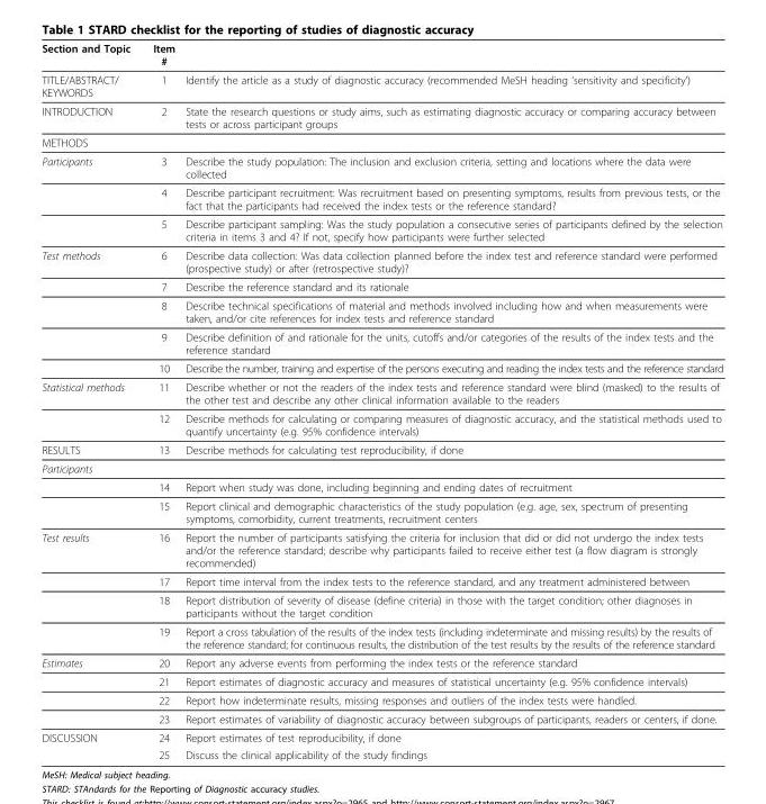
<table><thead><tr><td>Section and Topic</td><td>Item #</td><td></td></tr></thead><tbody><tr><td>TITLE/ABSTRACT/ KEYWORDS</td><td>1</td><td>Identify the article as a study of diagnostic accuracy (recommended MeSH heading ‘sensitivity and specificity’)</td></tr><tr><td>INTRODUCTION</td><td>2</td><td>State the research questions or study aims, such as estimating diagnostic accuracy or comparing accuracy between tests or across participant groups</td></tr><tr><td colspan="3">METHODS</td></tr><tr><td rowspan="3">Participants</td><td>3</td><td>Describe the study population: The inclusion and exclusion criteria, setting and locations where the data were collected</td></tr><tr><td>4</td><td>Describe participant recruitment: Was recruitment based on presenting symptoms, results from previous tests, or the fact that the participants had received the index tests or the reference standard?</td></tr><tr><td>5</td><td>Describe participant sampling: Was the study population a consecutive series of participants defined by the selection criteria in items 3 and 4? If not, specify how participants were further selected</td></tr><tr><td rowspan="5">Test methods</td><td>6</td><td>Describe data collection: Was data collection planned before the index test and reference standard were performed (prospective study) or after (retrospective study)?</td></tr><tr><td>7</td><td>Describe the reference standard and its rationale</td></tr><tr><td>8</td><td>Describe technical specifications of material and methods involved including how and when measurements were taken, and/or cite references for index tests and reference standard</td></tr><tr><td>9</td><td>Describe definition of and rationale for the units, cutoffs and/or categories of the results of the index tests and the reference standard</td></tr><tr><td>10</td><td>Describe the number, training and expertise of the persons executing and reading the index tests and the reference standard</td></tr><tr><td rowspan="2">Statistical methods</td><td>11</td><td>Describe whether or not the readers of the index tests and reference standard were blind (masked) to the results of the other test and describe any other clinical information available to the readers</td></tr><tr><td>12</td><td>Describe methods for calculating or comparing measures of diagnostic accuracy, and the statistical methods used to quantify uncertainty (e.g. 95% confidence intervals)</td></tr><tr><td>RESULTS</td><td>13</td><td>Describe methods for calculating test reproducibility, if done</td></tr><tr><td colspan="3">Participants</td></tr><tr><td></td><td>14</td><td>Report when study was done, including beginning and ending dates of recruitment</td></tr><tr><td></td><td>15</td><td>Report clinical and demographic characteristics of the study population (e.g. age, sex, spectrum of presenting symptoms, comorbidity, current treatments, recruitment centers</td></tr><tr><td rowspan="4">Test results</td><td>16</td><td>Report the number of participants satisfying the criteria for inclusion that did or did not undergo the index tests and/or the reference standard; describe why participants failed to receive either test (a flow diagram is strongly recommended)</td></tr><tr><td>17</td><td>Report time interval from the index tests to the reference standard, and any treatment administered between</td></tr><tr><td>18</td><td>Report distribution of severity of disease (define criteria) in those with the target condition; other diagnoses in participants without the target condition</td></tr><tr><td>19</td><td>Report a cross tabulation of the results of the index tests (including indeterminate and missing results) by the results of the reference standard; for continuous results, the distribution of the test results by the results of the reference standard</td></tr><tr><td rowspan="4">Estimates</td><td>20</td><td>Report any adverse events from performing the index tests or the reference standard</td></tr><tr><td>21</td><td>Report estimates of diagnostic accuracy and measures of statistical uncertainty (e.g. 95% confidence intervals)</td></tr><tr><td>22</td><td>Report how indeterminate results, missing responses and outliers of the index tests were handled.</td></tr><tr><td>23</td><td>Report estimates of variability of diagnostic accuracy between subgroups of participants, readers or centers, if done.</td></tr><tr><td rowspan="2">DISCUSSION</td><td>24</td><td>Report estimates of test reproducibility, if done</td></tr><tr><td>25</td><td>Discuss the clinical applicability of the study findings</td></tr></tbody></table>